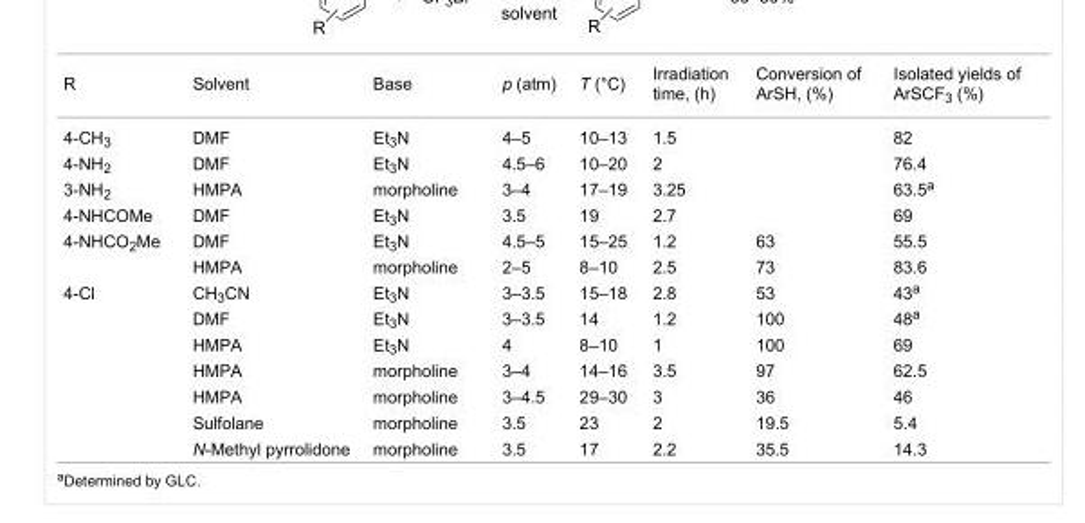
<table><tbody><tr><td>R</td><td>Solvent</td><td>Base</td><td>p (atm)</td><td>T (°C)</td><td>Irradiation time, (h)</td><td>Conversion of ArSH, (%)</td><td>Isolated yields of ArSCF<sub>3</sub> (%)</td></tr><tr><td>4-CH<sub>3</sub></td><td>DMF</td><td>Et<sub>3</sub>N</td><td>4–5</td><td>10–13</td><td>1.5</td><td></td><td>82</td></tr><tr><td>4-NH<sub>2</sub></td><td>DMF</td><td>Et<sub>3</sub>N</td><td>4.5–6</td><td>10–20</td><td>2</td><td></td><td>76.4</td></tr><tr><td>3-NH<sub>2</sub></td><td>HMPA</td><td>morpholine</td><td>3–4</td><td>17–19</td><td>3.25</td><td></td><td>63.5<sup>a</sup></td></tr><tr><td>4-NHCOMe</td><td>DMF</td><td>Et<sub>3</sub>N</td><td>3.5</td><td>19</td><td>2.7</td><td></td><td>69</td></tr><tr><td rowspan="2">4-NHCO<sub>2</sub>Me</td><td>DMF</td><td>Et<sub>3</sub>N</td><td>4.5–5</td><td>15–25</td><td>1.2</td><td>63</td><td>55.5</td></tr><tr><td>HMPA</td><td>morpholine</td><td>2–5</td><td>8–10</td><td>2.5</td><td>73</td><td>83.6</td></tr><tr><td rowspan="7">4-Cl</td><td>CH<sub>3</sub>CN</td><td>Et<sub>3</sub>N</td><td>3–3.5</td><td>15–18</td><td>2.8</td><td>53</td><td>43<sup>a</sup></td></tr><tr><td>DMF</td><td>Et<sub>3</sub>N</td><td>3–3.5</td><td>14</td><td>1.2</td><td>100</td><td>48<sup>a</sup></td></tr><tr><td>HMPA</td><td>Et<sub>3</sub>N</td><td>4</td><td>8–10</td><td>1</td><td>100</td><td>69</td></tr><tr><td>HMPA</td><td>morpholine</td><td>3–4</td><td>14–16</td><td>3.5</td><td>97</td><td>62.5</td></tr><tr><td>HMPA</td><td>morpholine</td><td>3–4.5</td><td>29–30</td><td>3</td><td>36</td><td>46</td></tr><tr><td>Sulfolane</td><td>morpholine</td><td>3.5</td><td>23</td><td>2</td><td>19.5</td><td>5.4</td></tr><tr><td>N-Methyl pyrrolidone</td><td>morpholine</td><td>3.5</td><td>17</td><td>2.2</td><td>35.5</td><td>14.3</td></tr></tbody></table>